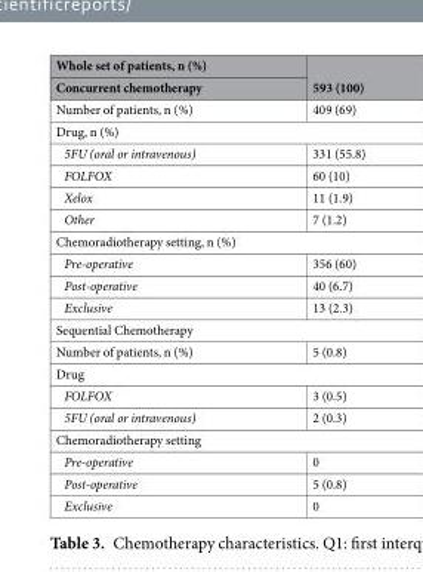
<table><thead><tr><td rowspan="2">Whole set of patients, n (%) Concurrent chemotherapy</td><td rowspan="2">593 (100)</td></tr><tr></tr></thead><tbody><tr><td>Number of patients, n (%)</td><td>409 (69)</td></tr><tr><td colspan="2">Drug, n (%)</td></tr><tr><td>5FU (oral or intravenous)</td><td>331 (55.8)</td></tr><tr><td>FOLFOX</td><td>60 (10)</td></tr><tr><td>Xelox</td><td>11 (1.9)</td></tr><tr><td>Other</td><td>7 (1.2)</td></tr><tr><td colspan="2">Chemoradiotherapy setting, n (%)</td></tr><tr><td>Pre-operative</td><td>356 (60)</td></tr><tr><td>Post-operative</td><td>40 (6.7)</td></tr><tr><td>Exclusive</td><td>13 (2.3)</td></tr><tr><td colspan="2">Sequential Chemotherapy</td></tr><tr><td>Number of patients, n (%)</td><td>5 (0.8)</td></tr><tr><td colspan="2">Drug</td></tr><tr><td>FOLFOX</td><td>3 (0.5)</td></tr><tr><td>5FU (oral or intravenous)</td><td>2 (0.3)</td></tr><tr><td colspan="2">Chemoradiotherapy setting</td></tr><tr><td>Pre-operative</td><td>0</td></tr><tr><td>Post-operative</td><td>5 (0.8)</td></tr><tr><td>Exclusive</td><td>0</td></tr></tbody></table>